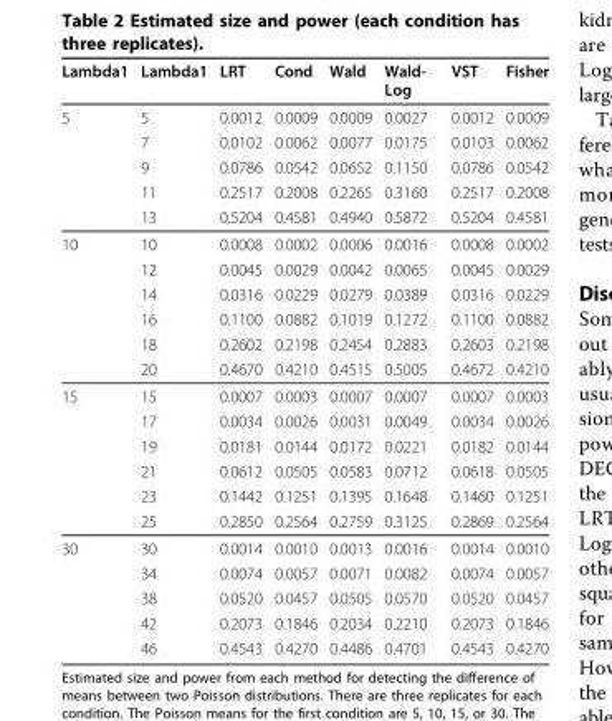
<table><thead><tr><td>Lambda1</td><td>Lambda1</td><td>LRT</td><td>Cond</td><td>Wald</td><td>Wald- Log</td><td>VST</td><td>Fisher</td></tr></thead><tbody><tr><td rowspan="5">5</td><td>5</td><td>0.0012</td><td>0.0009</td><td>0.0009</td><td>0.0027</td><td>0.0012</td><td>0.0009</td></tr><tr><td>7</td><td>0.0102</td><td>0.0062</td><td>0.0077</td><td>0.0175</td><td>0.0103</td><td>0.0062</td></tr><tr><td>9</td><td>0.0786</td><td>0.0542</td><td>0.0652</td><td>0.1150</td><td>0.0786</td><td>0.0542</td></tr><tr><td>11</td><td>0.2517</td><td>0.2008</td><td>0.2265</td><td>0.3160</td><td>0.2517</td><td>0.2008</td></tr><tr><td>13</td><td>0.5204</td><td>0.4581</td><td>0.4940</td><td>0.5872</td><td>0.5204</td><td>0.4581</td></tr><tr><td rowspan="6">10</td><td>10</td><td>0.0008</td><td>0.0002</td><td>0.0006</td><td>0.0016</td><td>0.0008</td><td>0.0002</td></tr><tr><td>12</td><td>0.0045</td><td>0.0029</td><td>0.0042</td><td>0.0065</td><td>0.0045</td><td>0.0029</td></tr><tr><td>14</td><td>0.0316</td><td>0.0229</td><td>0.0279</td><td>0.0389</td><td>0.0316</td><td>0.0229</td></tr><tr><td>16</td><td>0.1100</td><td>0.0882</td><td>0.1019</td><td>0.1272</td><td>0.1100</td><td>0.0882</td></tr><tr><td>18</td><td>0.2602</td><td>0.2198</td><td>0.2454</td><td>0.2883</td><td>0.2603</td><td>0.2198</td></tr><tr><td>20</td><td>0.4670</td><td>0.4210</td><td>0.4515</td><td>0.5005</td><td>0.4672</td><td>0.4210</td></tr><tr><td rowspan="6">15</td><td>15</td><td>0.0007</td><td>0.0003</td><td>0.0007</td><td>0.0007</td><td>0.0007</td><td>0.0003</td></tr><tr><td>17</td><td>0.0034</td><td>0.0026</td><td>0.0031</td><td>0.0049</td><td>0.0034</td><td>0.0026</td></tr><tr><td>19</td><td>0.0181</td><td>0.0144</td><td>0.0172</td><td>0.0221</td><td>0.0182</td><td>0.0144</td></tr><tr><td>21</td><td>0.0612</td><td>0.0505</td><td>0.0583</td><td>0.0712</td><td>0.0618</td><td>0.0505</td></tr><tr><td>23</td><td>0.1442</td><td>0.1251</td><td>0.1395</td><td>0.1648</td><td>0.1460</td><td>0.1251</td></tr><tr><td>25</td><td>0.2850</td><td>0.2564</td><td>0.2759</td><td>0.3125</td><td>0.2869</td><td>0.2564</td></tr><tr><td rowspan="5">30</td><td>30</td><td>0.0014</td><td>0.0010</td><td>0.0013</td><td>0.0016</td><td>0.0014</td><td>0.0010</td></tr><tr><td>34</td><td>0.0074</td><td>0.0057</td><td>0.0071</td><td>0.0082</td><td>0.0074</td><td>0.0057</td></tr><tr><td>38</td><td>0.0520</td><td>0.0457</td><td>0.0505</td><td>0.0570</td><td>0.0520</td><td>0.0457</td></tr><tr><td>42</td><td>0.2073</td><td>0.1846</td><td>0.2034</td><td>0.2210</td><td>0.2073</td><td>0.1846</td></tr><tr><td>46</td><td>0.4543</td><td>0.4270</td><td>0.4486</td><td>0.4701</td><td>0.4543</td><td>0.4270</td></tr></tbody></table>